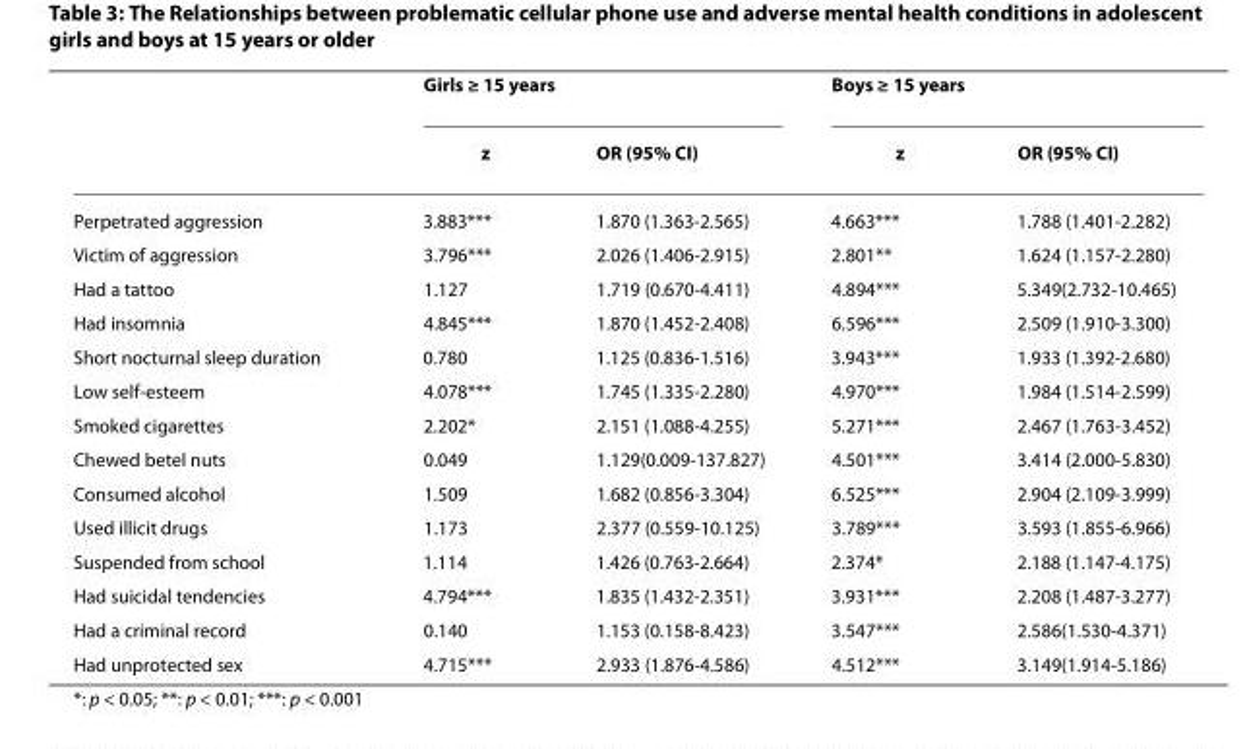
<table><thead><tr><td rowspan="2"></td><td colspan="2">Girls ≥ 15 years</td><td colspan="2">Boys ≥ 15 years</td></tr><tr><td>z</td><td>OR (95% CI)</td><td>z</td><td>OR (95% CI)</td></tr></thead><tbody><tr><td>Perpetrated aggression</td><td>3.883***</td><td>1.870 (1.363-2.565)</td><td>4.663***</td><td>1.788 (1.401-2.282)</td></tr><tr><td>Victim of aggression</td><td>3.796***</td><td>2.026 (1.406-2.915)</td><td>2.801**</td><td>1.624 (1.157-2.280)</td></tr><tr><td>Had a tattoo</td><td>1.127</td><td>1.719 (0.670-4.411)</td><td>4.894***</td><td>5.349(2.732-10.465)</td></tr><tr><td>Had insomnia</td><td>4.845***</td><td>1.870 (1.452-2.408)</td><td>6.596***</td><td>2.509 (1.910-3.300)</td></tr><tr><td>Short nocturnal sleep duration</td><td>0.780</td><td>1.125 (0.836-1.516)</td><td>3.943***</td><td>1.933 (1.392-2.680)</td></tr><tr><td>Low self-esteem</td><td>4.078***</td><td>1.745 (1.335-2.280)</td><td>4.970***</td><td>1.984 (1.514-2.599)</td></tr><tr><td>Smoked cigarettes</td><td>2.202*</td><td>2.151 (1.088-4.255)</td><td>5.271***</td><td>2.467 (1.763-3.452)</td></tr><tr><td>Chewed betel nuts</td><td>0.049</td><td>1.129(0.009-137.827)</td><td>4.501***</td><td>3.414 (2.000-5.830)</td></tr><tr><td>Consumed alcohol</td><td>1.509</td><td>1.682 (0.856-3.304)</td><td>6.525***</td><td>2.904 (2.109-3.999)</td></tr><tr><td>Used illicit drugs</td><td>1.173</td><td>2.377 (0.559-10.125)</td><td>3.789***</td><td>3.593 (1.855-6.966)</td></tr><tr><td>Suspended from school</td><td>1.114</td><td>1.426 (0.763-2.664)</td><td>2.374*</td><td>2.188 (1.147-4.175)</td></tr><tr><td>Had suicidal tendencies</td><td>4.794***</td><td>1.835 (1.432-2.351)</td><td>3.931***</td><td>2.208 (1.487-3.277)</td></tr><tr><td>Had a criminal record</td><td>0.140</td><td>1.153 (0.158-8.423)</td><td>3.547***</td><td>2.586(1.530-4.371)</td></tr><tr><td>Had unprotected sex</td><td>4.715***</td><td>2.933 (1.876-4.586)</td><td>4.512***</td><td>3.149(1.914-5.186)</td></tr></tbody></table>